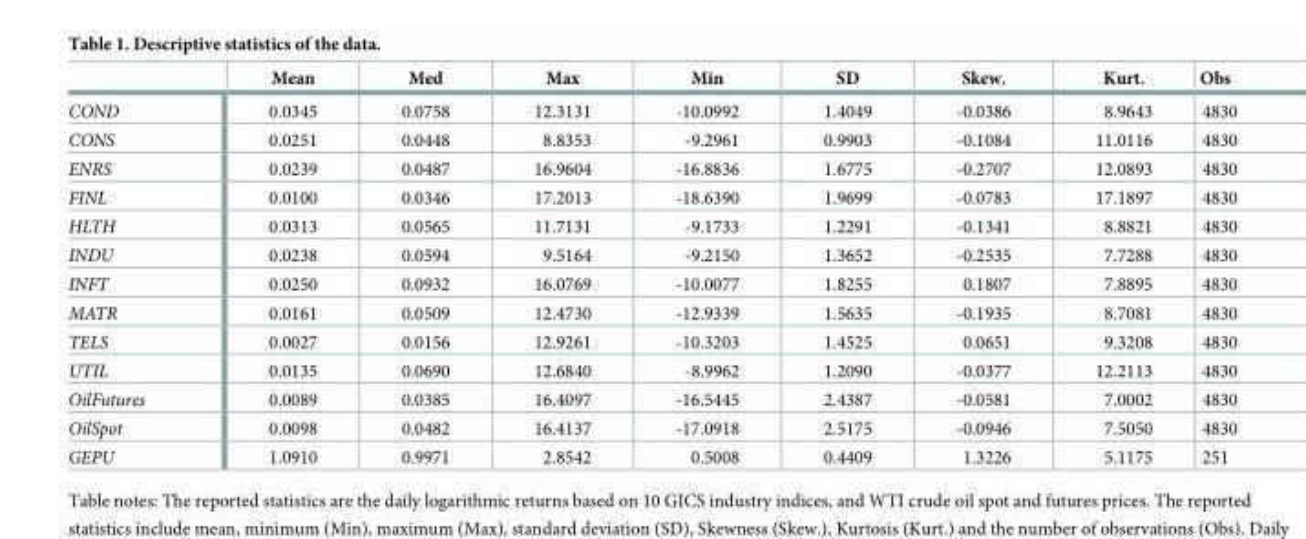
<table><thead><tr><td></td><td>Mean</td><td>Med</td><td>Max</td><td>Min</td><td>SD</td><td>Skew.</td><td>Kurt.</td><td>Obs</td></tr></thead><tbody><tr><td>COND</td><td>0.0345</td><td>0.0758</td><td>12.3131</td><td>-10.0992</td><td>1.4049</td><td>-0.0386</td><td>8.9643</td><td>4830</td></tr><tr><td>CONS</td><td>0.0251</td><td>0.0448</td><td>8.8353</td><td>-9.2961</td><td>0.9903</td><td>-0.1084</td><td>11.0116</td><td>4830</td></tr><tr><td>ENRS</td><td>0.0239</td><td>0.0487</td><td>16.9604</td><td>-16.8836</td><td>1.6775</td><td>-0.2707</td><td>12.0893</td><td>4830</td></tr><tr><td>FINL</td><td>0.0100</td><td>0.0346</td><td>17.2013</td><td>-18.6390</td><td>1.9699</td><td>-0.0783</td><td>17.1897</td><td>4830</td></tr><tr><td>HLTH</td><td>0.0313</td><td>0.0565</td><td>11.7131</td><td>-9.1733</td><td>1.2291</td><td>-0.1341</td><td>8.8821</td><td>4830</td></tr><tr><td>INDU</td><td>0.0238</td><td>0.0594</td><td>9.5164</td><td>-9.2150</td><td>1.3652</td><td>-0.2535</td><td>7.7288</td><td>4830</td></tr><tr><td>INFT</td><td>0.0250</td><td>0.0932</td><td>16.0769</td><td>-10.0077</td><td>1.8255</td><td>0.1807</td><td>7.8895</td><td>4830</td></tr><tr><td>MATR</td><td>0.0161</td><td>0.0509</td><td>12.4730</td><td>-12.9339</td><td>1.5635</td><td>-0.1935</td><td>8.7081</td><td>4830</td></tr><tr><td>TELS</td><td>0.0027</td><td>0.0156</td><td>12.9261</td><td>-10.3203</td><td>1.4525</td><td>0.0651</td><td>9.3208</td><td>4830</td></tr><tr><td>UTIL</td><td>0.0135</td><td>0.0690</td><td>12.6840</td><td>-8.9962</td><td>1.2090</td><td>-0.0377</td><td>12.2113</td><td>4830</td></tr><tr><td>OilFutures</td><td>0.0089</td><td>0.0385</td><td>16.4097</td><td>-16.5445</td><td>2.4387</td><td>-0.0581</td><td>7.0002</td><td>4830</td></tr><tr><td>OilSpot</td><td>0.0098</td><td>0.0482</td><td>16.4137</td><td>-17.0918</td><td>2.5175</td><td>-0.0946</td><td>7.5050</td><td>4830</td></tr><tr><td>GEPU</td><td>1.0910</td><td>0.9971</td><td>2.8542</td><td>0.5008</td><td>0.4409</td><td>1.3226</td><td>5.1175</td><td>251</td></tr></tbody></table>